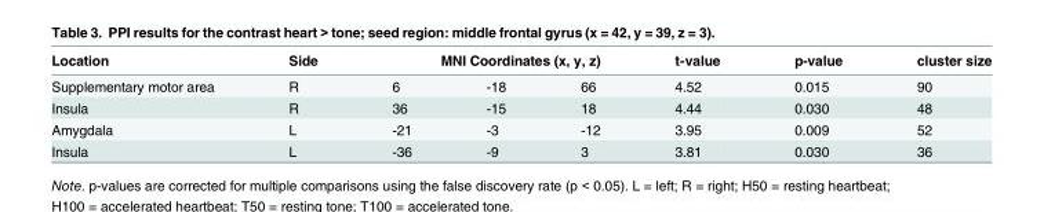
<table><thead><tr><td rowspan="2">Location Supplementary motor area</td><td rowspan="2">Side R</td><td colspan="3">MNI Coordinates (x, y, z)</td><td rowspan="2">t-value 4.52</td><td rowspan="2">p-value 0.015</td><td rowspan="2">cluster size 90</td></tr><tr><td>6</td><td>-18</td><td>66</td></tr></thead><tbody><tr><td>Insula</td><td>R</td><td>36</td><td>-15</td><td>18</td><td>4.44</td><td>0.030</td><td>48</td></tr><tr><td>Amygdala</td><td>L</td><td>-21</td><td>-3</td><td>-12</td><td>3.95</td><td>0.009</td><td>52</td></tr><tr><td>Insula</td><td>L</td><td>-36</td><td>-9</td><td>3</td><td>3.81</td><td>0.030</td><td>36</td></tr></tbody></table>